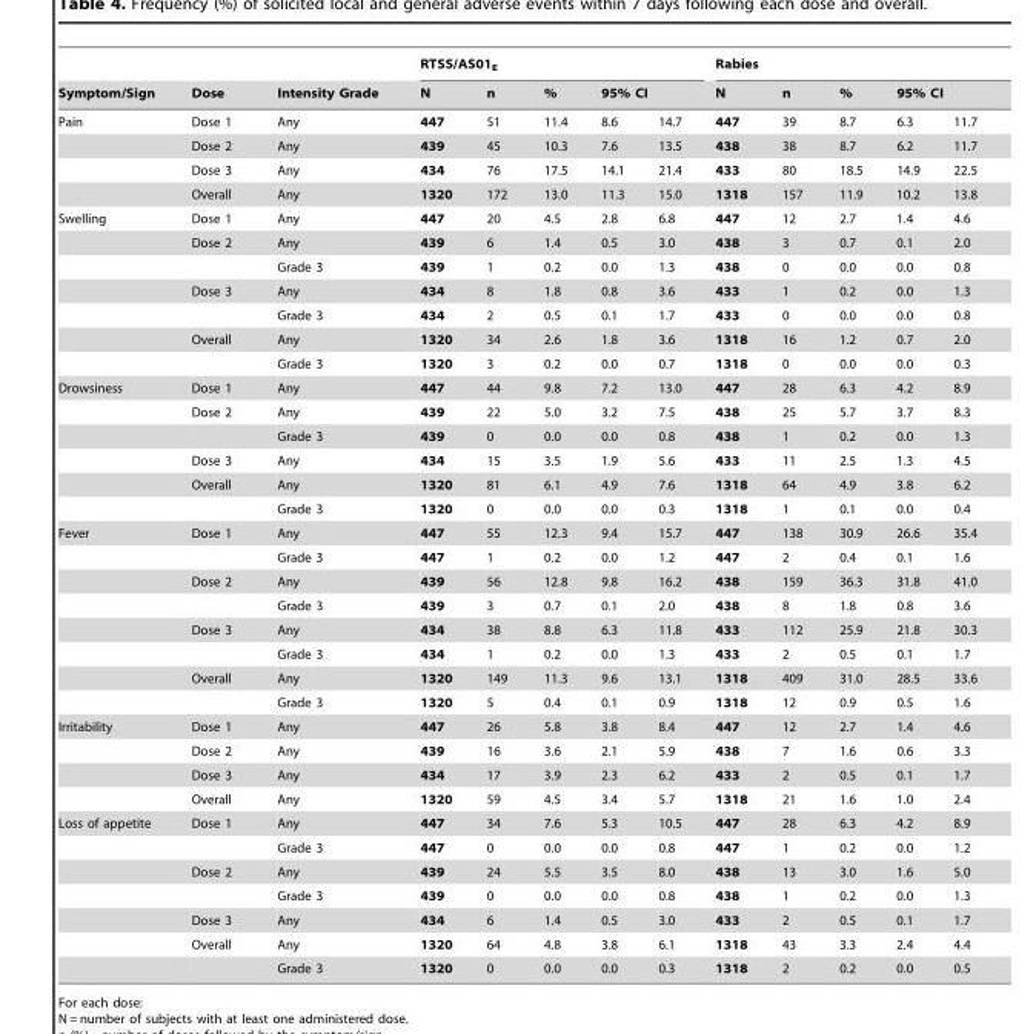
<table><thead><tr><td rowspan="3">Symptom/Sign Pain</td><td rowspan="3">Dose Dose 1</td><td rowspan="3">Intensity Grade Any</td><td colspan="5">RTSS/AS01<sub>E</sub></td><td colspan="5">Rabies</td></tr><tr><td rowspan="2">N 447</td><td rowspan="2">n 51</td><td rowspan="2">% 11.4</td><td colspan="2">95% CI</td><td rowspan="2">N 447</td><td rowspan="2">n 39</td><td rowspan="2">% 8.7</td><td colspan="2">95% CI</td></tr><tr><td>8.6</td><td>14.7</td><td>6.3</td><td>11.7</td></tr></thead><tbody><tr><td></td><td>Dose 2</td><td>Any</td><td>439</td><td>45</td><td>10.3</td><td>7.6</td><td>13.5</td><td>438</td><td>38</td><td>8.7</td><td>6.2</td><td>11.7</td></tr><tr><td></td><td>Dose 3</td><td>Any</td><td>434</td><td>76</td><td>17.5</td><td>14.1</td><td>21.4</td><td>433</td><td>80</td><td>18.5</td><td>14.9</td><td>22.5</td></tr><tr><td></td><td>Overall</td><td>Any</td><td>1320</td><td>172</td><td>13.0</td><td>11.3</td><td>15.0</td><td>1318</td><td>157</td><td>11.9</td><td>10.2</td><td>13.8</td></tr><tr><td rowspan="7">Swelling</td><td>Dose 1</td><td>Any</td><td>447</td><td>20</td><td>4.5</td><td>2.8</td><td>6.8</td><td>447</td><td>12</td><td>2.7</td><td>1.4</td><td>4.6</td></tr><tr><td>Dose 2</td><td>Any</td><td>439</td><td>6</td><td>1.4</td><td>0.5</td><td>3.0</td><td>438</td><td>3</td><td>0.7</td><td>0.1</td><td>2.0</td></tr><tr><td></td><td>Grade 3</td><td>439</td><td>1</td><td>0.2</td><td>0.0</td><td>1.3</td><td>438</td><td>0</td><td>0.0</td><td>0.0</td><td>0.8</td></tr><tr><td>Dose 3</td><td>Any</td><td>434</td><td>8</td><td>1.8</td><td>0.8</td><td>3.6</td><td>433</td><td>1</td><td>0.2</td><td>0.0</td><td>1.3</td></tr><tr><td></td><td>Grade 3</td><td>434</td><td>2</td><td>0.5</td><td>0.1</td><td>1.7</td><td>433</td><td>0</td><td>0.0</td><td>0.0</td><td>0.8</td></tr><tr><td>Overall</td><td>Any</td><td>1320</td><td>34</td><td>2.6</td><td>1.8</td><td>3.6</td><td>1318</td><td>16</td><td>1.2</td><td>0.7</td><td>2.0</td></tr><tr><td></td><td>Grade 3</td><td>1320</td><td>3</td><td>0.2</td><td>0.0</td><td>0.7</td><td>1318</td><td>0</td><td>0.0</td><td>0.0</td><td>0.3</td></tr><tr><td rowspan="6">Drowsiness</td><td>Dose 1</td><td>Any</td><td>447</td><td>44</td><td>9.8</td><td>7.2</td><td>13.0</td><td>447</td><td>28</td><td>6.3</td><td>4.2</td><td>8.9</td></tr><tr><td>Dose 2</td><td>Any</td><td>439</td><td>22</td><td>5.0</td><td>3.2</td><td>7.5</td><td>438</td><td>25</td><td>5.7</td><td>3.7</td><td>8.3</td></tr><tr><td></td><td>Grade 3</td><td>439</td><td>0</td><td>0.0</td><td>0.0</td><td>0.8</td><td>438</td><td>1</td><td>0.2</td><td>0.0</td><td>1.3</td></tr><tr><td>Dose 3</td><td>Any</td><td>434</td><td>15</td><td>3.5</td><td>1.9</td><td>5.6</td><td>433</td><td>11</td><td>2.5</td><td>1.3</td><td>4.5</td></tr><tr><td>Overall</td><td>Any</td><td>1320</td><td>81</td><td>6.1</td><td>4.9</td><td>7.6</td><td>1318</td><td>64</td><td>4.9</td><td>3.8</td><td>6.2</td></tr><tr><td></td><td>Grade 3</td><td>1320</td><td>0</td><td>0.0</td><td>0.0</td><td>0.3</td><td>1318</td><td>1</td><td>0.1</td><td>0.0</td><td>0.4</td></tr><tr><td rowspan="8">Fever</td><td>Dose 1</td><td>Any</td><td>447</td><td>55</td><td>12.3</td><td>9.4</td><td>15.7</td><td>447</td><td>138</td><td>30.9</td><td>26.6</td><td>35.4</td></tr><tr><td></td><td>Grade 3</td><td>447</td><td>1</td><td>0.2</td><td>0.0</td><td>1.2</td><td>447</td><td>2</td><td>0.4</td><td>0.1</td><td>1.6</td></tr><tr><td>Dose 2</td><td>Any</td><td>439</td><td>56</td><td>12.8</td><td>9.8</td><td>16.2</td><td>438</td><td>159</td><td>36.3</td><td>31.8</td><td>41.0</td></tr><tr><td></td><td>Grade 3</td><td>439</td><td>3</td><td>0.7</td><td>0.1</td><td>2.0</td><td>438</td><td>8</td><td>1.8</td><td>0.8</td><td>3.6</td></tr><tr><td>Dose 3</td><td>Any</td><td>434</td><td>38</td><td>8.8</td><td>6.3</td><td>11.8</td><td>433</td><td>112</td><td>25.9</td><td>21.8</td><td>30.3</td></tr><tr><td></td><td>Grade 3</td><td>434</td><td>1</td><td>0.2</td><td>0.0</td><td>1.3</td><td>433</td><td>2</td><td>0.5</td><td>0.1</td><td>1.7</td></tr><tr><td>Overall</td><td>Any</td><td>1320</td><td>149</td><td>11.3</td><td>9.6</td><td>13.1</td><td>1318</td><td>409</td><td>31.0</td><td>28.5</td><td>33.6</td></tr><tr><td></td><td>Grade 3</td><td>1320</td><td>5</td><td>0.4</td><td>0.1</td><td>0.9</td><td>1318</td><td>12</td><td>0.9</td><td>0.5</td><td>1.6</td></tr><tr><td rowspan="4">Irritability</td><td>Dose 1</td><td>Any</td><td>447</td><td>26</td><td>5.8</td><td>3.8</td><td>8.4</td><td>447</td><td>12</td><td>2.7</td><td>1.4</td><td>4.6</td></tr><tr><td>Dose 2</td><td>Any</td><td>439</td><td>16</td><td>3.6</td><td>2.1</td><td>5.9</td><td>438</td><td>7</td><td>1.6</td><td>0.6</td><td>3.3</td></tr><tr><td>Dose 3</td><td>Any</td><td>434</td><td>17</td><td>3.9</td><td>2.3</td><td>6.2</td><td>433</td><td>2</td><td>0.5</td><td>0.1</td><td>1.7</td></tr><tr><td>Overall</td><td>Any</td><td>1320</td><td>59</td><td>4.5</td><td>3.4</td><td>5.7</td><td>1318</td><td>21</td><td>1.6</td><td>1.0</td><td>2.4</td></tr><tr><td rowspan="7">Loss of appetite</td><td>Dose 1</td><td>Any</td><td>447</td><td>34</td><td>7.6</td><td>5.3</td><td>10.5</td><td>447</td><td>28</td><td>6.3</td><td>4.2</td><td>8.9</td></tr><tr><td></td><td>Grade 3</td><td>447</td><td>0</td><td>0.0</td><td>0.0</td><td>0.8</td><td>447</td><td>1</td><td>0.2</td><td>0.0</td><td>1.2</td></tr><tr><td>Dose 2</td><td>Any</td><td>439</td><td>24</td><td>5.5</td><td>3.5</td><td>8.0</td><td>438</td><td>13</td><td>3.0</td><td>1.6</td><td>5.0</td></tr><tr><td></td><td>Grade 3</td><td>439</td><td>0</td><td>0.0</td><td>0.0</td><td>0.8</td><td>438</td><td>1</td><td>0.2</td><td>0.0</td><td>1.3</td></tr><tr><td>Dose 3</td><td>Any</td><td>434</td><td>6</td><td>1.4</td><td>0.5</td><td>3.0</td><td>433</td><td>2</td><td>0.5</td><td>0.1</td><td>1.7</td></tr><tr><td>Overall</td><td>Any</td><td>1320</td><td>64</td><td>4.8</td><td>3.8</td><td>6.1</td><td>1318</td><td>43</td><td>3.3</td><td>2.4</td><td>4.4</td></tr><tr><td></td><td>Grade 3</td><td>1320</td><td>0</td><td>0.0</td><td>0.0</td><td>0.3</td><td>1318</td><td>2</td><td>0.2</td><td>0.0</td><td>0.5</td></tr></tbody></table>